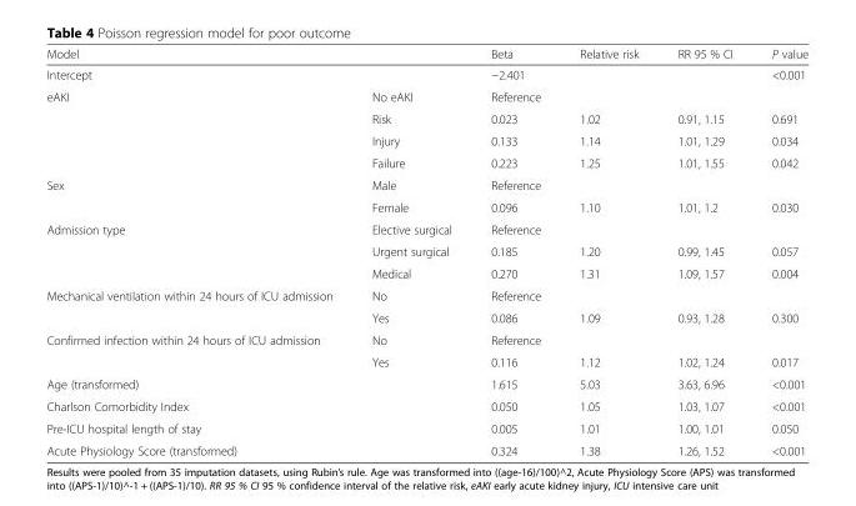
<table><thead><tr><td>Model</td><td></td><td>Beta</td><td>Relative risk</td><td>RR 95 % CI</td><td>P value</td></tr></thead><tbody><tr><td colspan="2">Intercept</td><td>−2.401</td><td></td><td></td><td>&lt;0.001</td></tr><tr><td rowspan="4">eAKI</td><td>No eAKI</td><td>Reference</td><td colspan="3"></td></tr><tr><td>Risk</td><td>0.023</td><td>1.02</td><td>0.91, 1.15</td><td>0.691</td></tr><tr><td>Injury</td><td>0.133</td><td>1.14</td><td>1.01, 1.29</td><td>0.034</td></tr><tr><td>Failure</td><td>0.223</td><td>1.25</td><td>1.01, 1.55</td><td>0.042</td></tr><tr><td rowspan="2">Sex</td><td>Male</td><td>Reference</td><td colspan="3"></td></tr><tr><td>Female</td><td>0.096</td><td>1.10</td><td>1.01, 1.2</td><td>0.030</td></tr><tr><td rowspan="3">Admission type</td><td>Elective surgical</td><td>Reference</td><td colspan="3"></td></tr><tr><td>Urgent surgical</td><td>0.185</td><td>1.20</td><td>0.99, 1.45</td><td>0.057</td></tr><tr><td>Medical</td><td>0.270</td><td>1.31</td><td>1.09, 1.57</td><td>0.004</td></tr><tr><td rowspan="2">Mechanical ventilation within 24 hours of ICU admission</td><td>No</td><td>Reference</td><td colspan="3"></td></tr><tr><td>Yes</td><td>0.086</td><td>1.09</td><td>0.93, 1.28</td><td>0.300</td></tr><tr><td rowspan="2">Confirmed infection within 24 hours of ICU admission</td><td>No</td><td>Reference</td><td colspan="3"></td></tr><tr><td>Yes</td><td>0.116</td><td>1.12</td><td>1.02, 1.24</td><td>0.017</td></tr><tr><td colspan="2">Age (transformed)</td><td>1.615</td><td>5.03</td><td>3.63, 6.96</td><td>&lt;0.001</td></tr><tr><td colspan="2">Charlson Comorbidity Index</td><td>0.050</td><td>1.05</td><td>1.03, 1.07</td><td>&lt;0.001</td></tr><tr><td colspan="2">Pre-ICU hospital length of stay</td><td>0.005</td><td>1.01</td><td>1.00, 1.01</td><td>0.050</td></tr><tr><td colspan="2">Acute Physiology Score (transformed)</td><td>0.324</td><td>1.38</td><td>1.26, 1.52</td><td>&lt;0.001</td></tr></tbody></table>